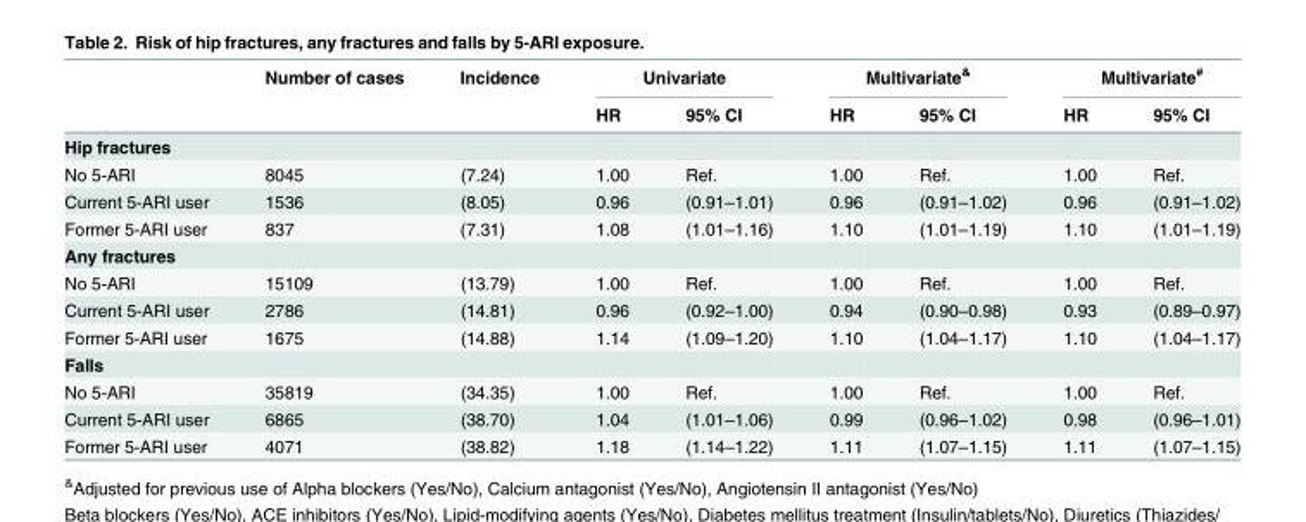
<table><thead><tr><td rowspan="2"></td><td rowspan="2">Number of cases</td><td rowspan="2">Incidence</td><td colspan="2">Univariate</td><td colspan="2">Multivariate<sup>&amp;</sup></td><td colspan="2">Multivariate<sup>#</sup></td></tr><tr><td>HR</td><td>95% CI</td><td>HR</td><td>95% CI</td><td>HR</td><td>95% CI</td></tr></thead><tbody><tr><td colspan="9">Hip fractures</td></tr><tr><td>No 5-ARI</td><td>8045</td><td>(7.24)</td><td>1.00</td><td>Ref.</td><td>1.00</td><td>Ref.</td><td>1.00</td><td>Ref.</td></tr><tr><td>Current 5-ARI user</td><td>1536</td><td>(8.05)</td><td>0.96</td><td>(0.91–1.01)</td><td>0.96</td><td>(0.91–1.02)</td><td>0.96</td><td>(0.91–1.02)</td></tr><tr><td>Former 5-ARI user</td><td>837</td><td>(7.31)</td><td>1.08</td><td>(1.01–1.16)</td><td>1.10</td><td>(1.01–1.19)</td><td>1.10</td><td>(1.01–1.19)</td></tr><tr><td colspan="9">Any fractures</td></tr><tr><td>No 5-ARI</td><td>15109</td><td>(13.79)</td><td>1.00</td><td>Ref.</td><td>1.00</td><td>Ref.</td><td>1.00</td><td>Ref.</td></tr><tr><td>Current 5-ARI user</td><td>2786</td><td>(14.81)</td><td>0.96</td><td>(0.92–1.00)</td><td>0.94</td><td>(0.90–0.98)</td><td>0.93</td><td>(0.89–0.97)</td></tr><tr><td>Former 5-ARI user</td><td>1675</td><td>(14.88)</td><td>1.14</td><td>(1.09–1.20)</td><td>1.10</td><td>(1.04–1.17)</td><td>1.10</td><td>(1.04–1.17)</td></tr><tr><td colspan="9">Falls</td></tr><tr><td>No 5-ARI</td><td>35819</td><td>(34.35)</td><td>1.00</td><td>Ref.</td><td>1.00</td><td>Ref.</td><td>1.00</td><td>Ref.</td></tr><tr><td>Current 5-ARI user</td><td>6865</td><td>(38.70)</td><td>1.04</td><td>(1.01–1.06)</td><td>0.99</td><td>(0.96–1.02)</td><td>0.98</td><td>(0.96–1.01)</td></tr><tr><td>Former 5-ARI user</td><td>4071</td><td>(38.82)</td><td>1.18</td><td>(1.14–1.22)</td><td>1.11</td><td>(1.07–1.15)</td><td>1.11</td><td>(1.07–1.15)</td></tr></tbody></table>